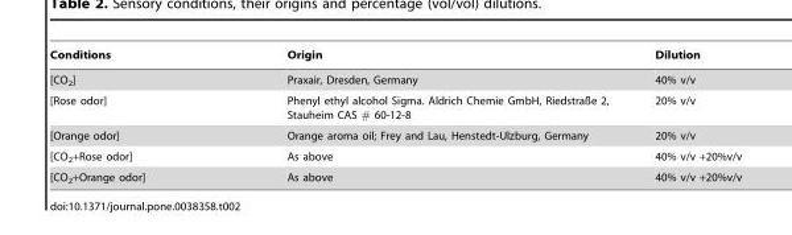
<table><thead><tr><td>Conditions</td><td>Origin</td><td>Dilution</td></tr></thead><tbody><tr><td>[CO<sub>2</sub>]</td><td>Praxair, Dresden, Germany</td><td>40% v/v</td></tr><tr><td>[Rose odor]</td><td>Phenyl ethyl alcohol Sigma. Aldrich Chemie GmbH, Riedstraße 2, Stauheim CAS # 60-12-8</td><td>20% v/v</td></tr><tr><td>[Orange odor]</td><td>Orange aroma oil; Frey and Lau, Henstedt-Ulzburg, Germany</td><td>20% v/v</td></tr><tr><td>[CO<sub>2</sub>+Rose odor]</td><td>As above</td><td>40% v/v +20%v/v</td></tr><tr><td>[CO<sub>2</sub>+Orange odor]</td><td>As above</td><td>40% v/v +20%v/v</td></tr></tbody></table>